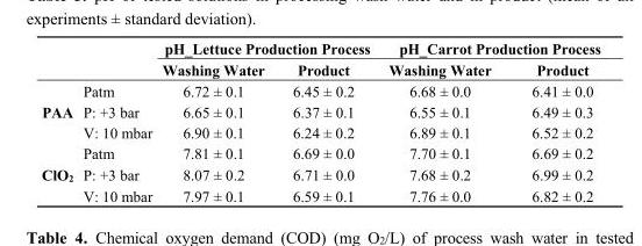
<table><thead><tr><td rowspan="2"></td><td rowspan="2"></td><td colspan="2">pH_Lettuce Production Process</td><td colspan="2">pH_Carrot Production Process</td></tr><tr><td>Washing Water</td><td>Product</td><td>Washing Water</td><td>Product</td></tr></thead><tbody><tr><td rowspan="3">PAA</td><td>Patm</td><td>6.72 ± 0.1</td><td>6.45 ± 0.2</td><td>6.68 ± 0.0</td><td>6.41 ± 0.0</td></tr><tr><td>P: +3 bar</td><td>6.65 ± 0.1</td><td>6.37 ± 0.1</td><td>6.55 ± 0.1</td><td>6.49 ± 0.3</td></tr><tr><td>V: 10 mbar</td><td>6.90 ± 0.1</td><td>6.24 ± 0.2</td><td>6.89 ± 0.1</td><td>6.52 ± 0.2</td></tr><tr><td rowspan="3">ClO<sub>2</sub></td><td>Patm</td><td>7.81 ± 0.1</td><td>6.69 ± 0.0</td><td>7.70 ± 0.1</td><td>6.69 ± 0.2</td></tr><tr><td>P: +3 bar</td><td>8.07 ± 0.2</td><td>6.71 ± 0.0</td><td>7.68 ± 0.2</td><td>6.99 ± 0.2</td></tr><tr><td>V: 10 mbar</td><td>7.97 ± 0.1</td><td>6.59 ± 0.1</td><td>7.76 ± 0.0</td><td>6.82 ± 0.2</td></tr></tbody></table>